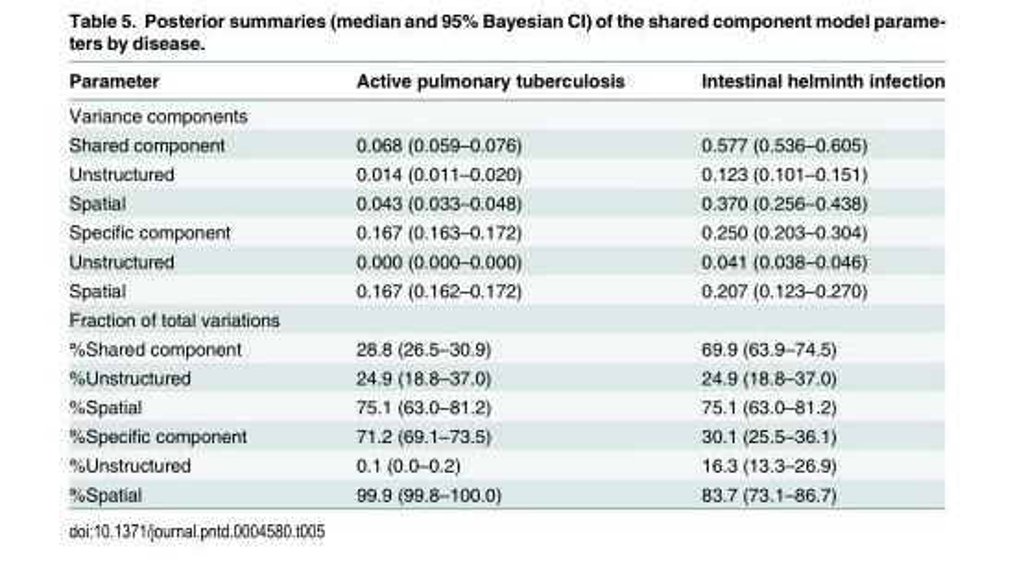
<table><thead><tr><td>Parameter</td><td>Active pulmonary tuberculosis</td><td>Intestinal helminth infection</td></tr></thead><tbody><tr><td colspan="3">Variance components</td></tr><tr><td>Shared component</td><td>0.068 (0.059–0.076)</td><td>0.577 (0.536–0.605)</td></tr><tr><td>Unstructured</td><td>0.014 (0.011–0.020)</td><td>0.123 (0.101–0.151)</td></tr><tr><td>Spatial</td><td>0.043 (0.033–0.048)</td><td>0.370 (0.256–0.438)</td></tr><tr><td>Specific component</td><td>0.167 (0.163–0.172)</td><td>0.250 (0.203–0.304)</td></tr><tr><td>Unstructured</td><td>0.000 (0.000–0.000)</td><td>0.041 (0.038–0.046)</td></tr><tr><td>Spatial</td><td>0.167 (0.162–0.172)</td><td>0.207 (0.123–0.270)</td></tr><tr><td colspan="3">Fraction of total variations</td></tr><tr><td>%Shared component</td><td>28.8 (26.5–30.9)</td><td>69.9 (63.9–74.5)</td></tr><tr><td>%Unstructured</td><td>24.9 (18.8–37.0)</td><td>24.9 (18.8–37.0)</td></tr><tr><td>%Spatial</td><td>75.1 (63.0–81.2)</td><td>75.1 (63.0–81.2)</td></tr><tr><td>%Specific component</td><td>71.2 (69.1–73.5)</td><td>30.1 (25.5–36.1)</td></tr><tr><td>%Unstructured</td><td>0.1 (0.0–0.2)</td><td>16.3 (13.3–26.9)</td></tr><tr><td>%Spatial</td><td>99.9 (99.8–100.0)</td><td>83.7 (73.1–86.7)</td></tr></tbody></table>